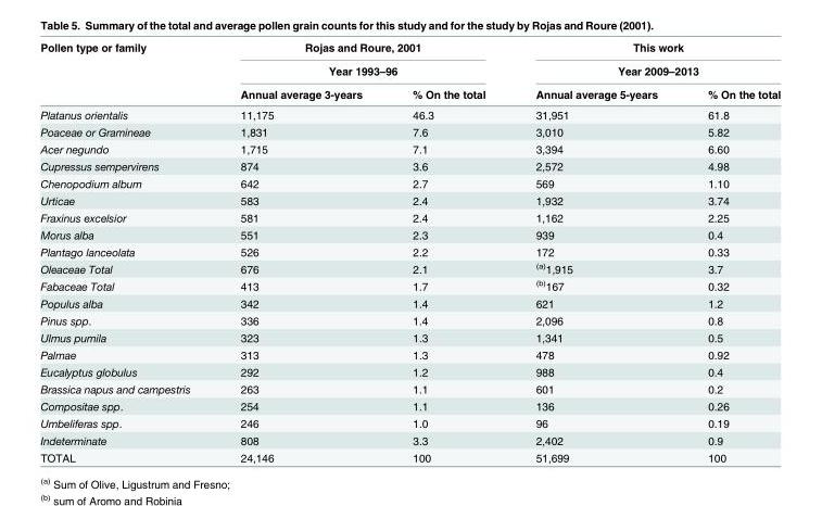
<table><thead><tr><td rowspan="3">Pollen type or family</td><td rowspan="2" colspan="2">Rojas and Roure, 2001 Year 1993–96</td><td rowspan="2" colspan="2">This work Year 2009–2013</td></tr><tr></tr><tr><td>Annual average 3-years</td><td>% On the total</td><td>Annual average 5-years</td><td>% On the total</td></tr></thead><tbody><tr><td>Platanus orientalis</td><td>11,175</td><td>46.3</td><td>31,951</td><td>61.8</td></tr><tr><td>Poaceae or Gramineae</td><td>1,831</td><td>7.6</td><td>3,010</td><td>5.82</td></tr><tr><td>Acer negundo</td><td>1,715</td><td>7.1</td><td>3,394</td><td>6.60</td></tr><tr><td>Cupressus sempervirens</td><td>874</td><td>3.6</td><td>2,572</td><td>4.98</td></tr><tr><td>Chenopodium album</td><td>642</td><td>2.7</td><td>569</td><td>1.10</td></tr><tr><td>Urticae</td><td>583</td><td>2.4</td><td>1,932</td><td>3.74</td></tr><tr><td>Fraxinus excelsior</td><td>581</td><td>2.4</td><td>1,162</td><td>2.25</td></tr><tr><td>Morus alba</td><td>551</td><td>2.3</td><td>939</td><td>0.4</td></tr><tr><td>Plantago lanceolata</td><td>526</td><td>2.2</td><td>172</td><td>0.33</td></tr><tr><td>Oleaceae Total</td><td>676</td><td>2.1</td><td><sup>(a)</sup>1,915</td><td>3.7</td></tr><tr><td>Fabaceae Total</td><td>413</td><td>1.7</td><td><sup>(b)</sup>167</td><td>0.32</td></tr><tr><td>Populus alba</td><td>342</td><td>1.4</td><td>621</td><td>1.2</td></tr><tr><td>Pinus spp.</td><td>336</td><td>1.4</td><td>2,096</td><td>0.8</td></tr><tr><td>Ulmus pumila</td><td>323</td><td>1.3</td><td>1,341</td><td>0.5</td></tr><tr><td>Palmae</td><td>313</td><td>1.3</td><td>478</td><td>0.92</td></tr><tr><td>Eucalyptus globulus</td><td>292</td><td>1.2</td><td>988</td><td>0.4</td></tr><tr><td>Brassica napus and campestris</td><td>263</td><td>1.1</td><td>601</td><td>0.2</td></tr><tr><td>Compositae spp.</td><td>254</td><td>1.1</td><td>136</td><td>0.26</td></tr><tr><td>Umbeliferas spp.</td><td>246</td><td>1.0</td><td>96</td><td>0.19</td></tr><tr><td>Indeterminate</td><td>808</td><td>3.3</td><td>2,402</td><td>0.9</td></tr><tr><td>TOTAL</td><td>24,146</td><td>100</td><td>51,699</td><td>100</td></tr></tbody></table>